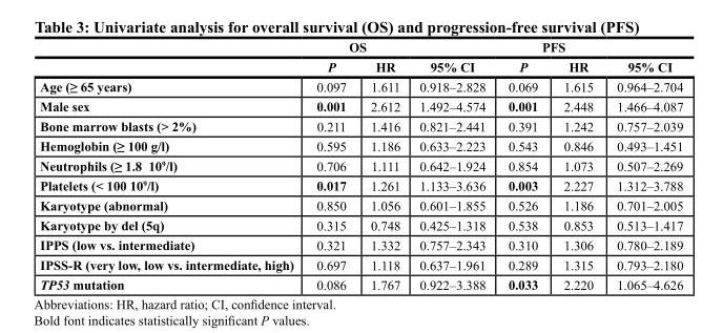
<table><thead><tr><td rowspan="2"></td><td colspan="2">os</td><td rowspan="2">95% CI</td><td colspan="2">PFs</td><td rowspan="2">95% CI</td></tr><tr><td>P</td><td>Hr</td><td>P</td><td>Hr</td></tr></thead><tbody><tr><td>Age (≥ 65 years)</td><td>0.097</td><td>1.611</td><td>0.918–2.828</td><td>0.069</td><td>1.615</td><td>0.964–2.704</td></tr><tr><td>Male sex</td><td>0.001</td><td>2.612</td><td>1.492–4.574</td><td>0.001</td><td>2.448</td><td>1.466–4.087</td></tr><tr><td>Bone marrow blasts (&gt; 2%)</td><td>0.211</td><td>1.416</td><td>0.821–2.441</td><td>0.391</td><td>1.242</td><td>0.757–2.039</td></tr><tr><td>Hemoglobin (≥ 100 g/l)</td><td>0.595</td><td>1.186</td><td>0.633–2.223</td><td>0.543</td><td>0.846</td><td>0.493–1.451</td></tr><tr><td>Neutrophils (≥ 1.8 10<sup>9</sup>/l)</td><td>0.706</td><td>1.111</td><td>0.642–1.924</td><td>0.854</td><td>1.073</td><td>0.507–2.269</td></tr><tr><td>Platelets (&lt; 100 10<sup>9</sup>/l)</td><td>0.017</td><td>1.261</td><td>1.133–3.636</td><td>0.003</td><td>2.227</td><td>1.312–3.788</td></tr><tr><td>Karyotype (abnormal)</td><td>0.850</td><td>1.056</td><td>0.601–1.855</td><td>0.526</td><td>1.186</td><td>0.701–2.005</td></tr><tr><td>Karyotype by del (5q)</td><td>0.315</td><td>0.748</td><td>0.425–1.318</td><td>0.538</td><td>0.853</td><td>0.513–1.417</td></tr><tr><td>IPPS (low vs. intermediate)</td><td>0.321</td><td>1.332</td><td>0.757–2.343</td><td>0.310</td><td>1.306</td><td>0.780–2.189</td></tr><tr><td>IPSS-R (very low, low vs. intermediate, high)</td><td>0.697</td><td>1.118</td><td>0.637–1.961</td><td>0.289</td><td>1.315</td><td>0.793–2.180</td></tr><tr><td>TP53 mutation</td><td>0.086</td><td>1.767</td><td>0.922–3.388</td><td>0.033</td><td>2.220</td><td>1.065–4.626</td></tr></tbody></table>